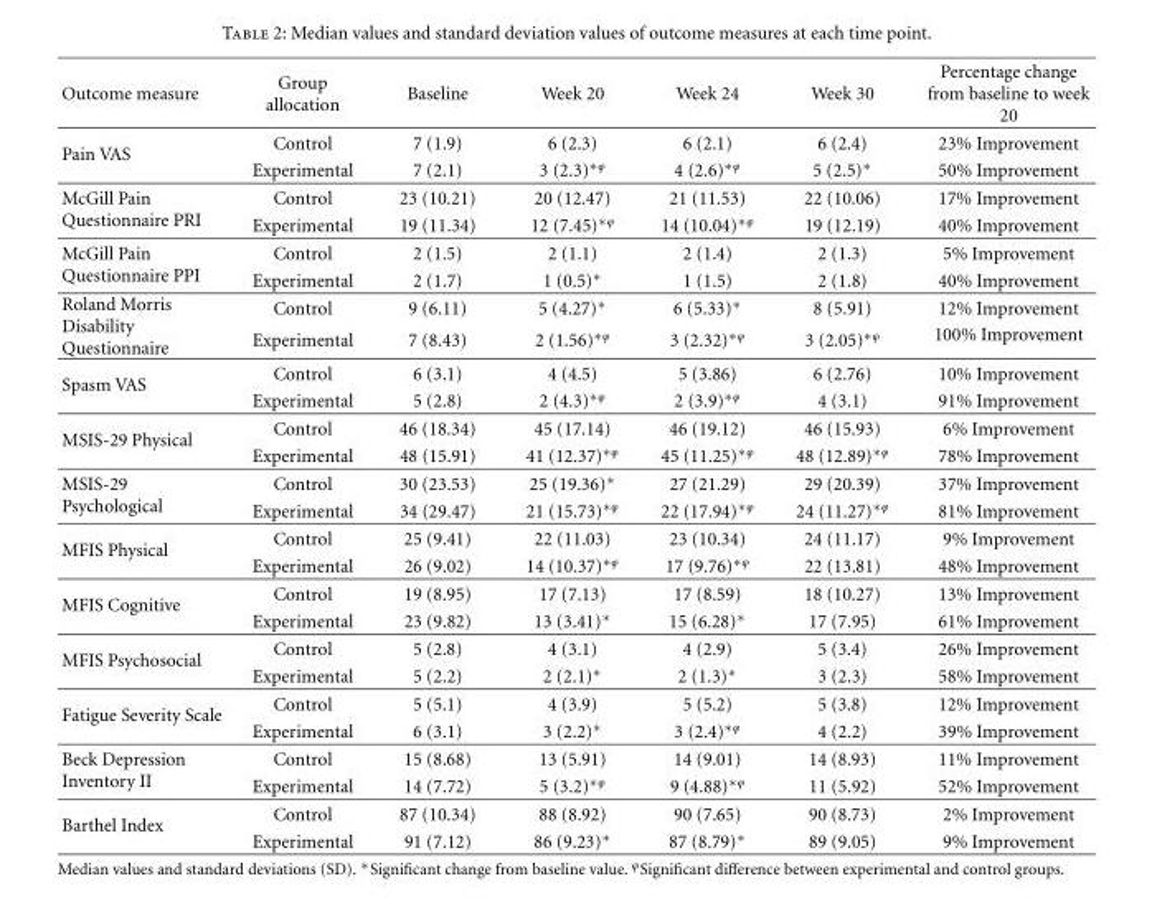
<table><thead><tr><td>Outcome measure</td><td>Group allocation</td><td>Baseline</td><td>Week 20</td><td>Week 24</td><td>Week 30</td><td>Percentage change from baseline to week 20</td></tr></thead><tbody><tr><td rowspan="2">Pain VAS</td><td>Control</td><td>7 (1.9)</td><td>6 (2.3)</td><td>6 (2.1)</td><td>6 (2.4)</td><td>23% Improvement</td></tr><tr><td>Experimental</td><td>7 (2.1)</td><td>3 (2.3)<sup>∗ϕ</sup></td><td>4 (2.6)<sup>∗ϕ</sup></td><td>5 (2.5)∗</td><td>50% Improvement</td></tr><tr><td rowspan="2">McGill Pain Questionnaire PRI</td><td>Control</td><td>23 (10.21)</td><td>20 (12.47)</td><td>21 (11.53)</td><td>22 (10.06)</td><td>17% Improvement</td></tr><tr><td>Experimental</td><td>19 (11.34)</td><td>12 (7.45)<sup>∗ϕ</sup></td><td>14 (10.04)<sup>∗ϕ</sup></td><td>19 (12.19)</td><td>40% Improvement</td></tr><tr><td rowspan="2">McGill Pain Questionnaire PPI</td><td>Control</td><td>2 (1.5)</td><td>2 (1.1)</td><td>2 (1.4)</td><td>2 (1.3)</td><td>5% Improvement</td></tr><tr><td>Experimental</td><td>2 (1.7)</td><td>1 (0.5)∗</td><td>1 (1.5)</td><td>2 (1.8)</td><td>40% Improvement</td></tr><tr><td rowspan="2">Roland Morris Disability Questionnaire</td><td>Control</td><td>9 (6.11)</td><td>5 (4.27)∗</td><td>6 (5.33)∗</td><td>8 (5.91)</td><td>12% Improvement</td></tr><tr><td>Experimental</td><td>7 (8.43)</td><td>2 (1.56)<sup>∗ϕ</sup></td><td>3 (2.32)<sup>∗ϕ</sup></td><td>3 (2.05)<sup>∗ϕ</sup></td><td>100% Improvement</td></tr><tr><td rowspan="2">Spasm VAS</td><td>Control</td><td>6 (3.1)</td><td>4 (4.5)</td><td>5 (3.86)</td><td>6 (2.76)</td><td>10% Improvement</td></tr><tr><td>Experimental</td><td>5 (2.8)</td><td>2 (4.3)<sup>∗ϕ</sup></td><td>2 (3.9)<sup>∗ϕ</sup></td><td>4 (3.1)</td><td>91% Improvement</td></tr><tr><td rowspan="2">MSIS-29 Physical</td><td>Control</td><td>46 (18.34)</td><td>45 (17.14)</td><td>46 (19.12)</td><td>46 (15.93)</td><td>6% Improvement</td></tr><tr><td>Experimental</td><td>48 (15.91)</td><td>41 (12.37)<sup>∗ϕ</sup></td><td>45 (11.25)<sup>∗ϕ</sup></td><td>48 (12.89)<sup>∗ϕ</sup></td><td>78% Improvement</td></tr><tr><td rowspan="2">MSIS-29 Psychological</td><td>Control</td><td>30 (23.53)</td><td>25 (19.36)∗</td><td>27 (21.29)</td><td>29 (20.39)</td><td>37% Improvement</td></tr><tr><td>Experimental</td><td>34 (29.47)</td><td>21 (15.73)<sup>∗ϕ</sup></td><td>22 (17.94)<sup>∗ϕ</sup></td><td>24 (11.27)<sup>∗ϕ</sup></td><td>81% Improvement</td></tr><tr><td rowspan="2">MFIS Physical</td><td>Control</td><td>25 (9.41)</td><td>22 (11.03)</td><td>23 (10.34)</td><td>24 (11.17)</td><td>9% Improvement</td></tr><tr><td>Experimental</td><td>26 (9.02)</td><td>14 (10.37)<sup>∗ϕ</sup></td><td>17 (9.76)<sup>∗ϕ</sup></td><td>22 (13.81)</td><td>48% Improvement</td></tr><tr><td rowspan="2">MFIS Cognitive</td><td>Control</td><td>19 (8.95)</td><td>17 (7.13)</td><td>17 (8.59)</td><td>18 (10.27)</td><td>13% Improvement</td></tr><tr><td>Experimental</td><td>23 (9.82)</td><td>13 (3.41)∗</td><td>15 (6.28)∗</td><td>17 (7.95)</td><td>61% Improvement</td></tr><tr><td rowspan="2">MFIS Psychosocial</td><td>Control</td><td>5 (2.8)</td><td>4 (3.1)</td><td>4 (2.9)</td><td>5 (3.4)</td><td>26% Improvement</td></tr><tr><td>Experimental</td><td>5 (2.2)</td><td>2 (2.1)∗</td><td>2 (1.3)∗</td><td>3 (2.3)</td><td>58% Improvement</td></tr><tr><td rowspan="2">Fatigue Severity Scale</td><td>Control</td><td>5 (5.1)</td><td>4 (3.9)</td><td>5 (5.2)</td><td>5 (3.8)</td><td>12% Improvement</td></tr><tr><td>Experimental</td><td>6 (3.1)</td><td>3 (2.2)∗</td><td>3 (2.4)<sup>∗ϕ</sup></td><td>4 (2.2)</td><td>39% Improvement</td></tr><tr><td rowspan="2">Beck Depression Inventory II</td><td>Control</td><td>15 (8.68)</td><td>13 (5.91)</td><td>14 (9.01)</td><td>14 (8.93)</td><td>11% Improvement</td></tr><tr><td>Experimental</td><td>14 (7.72)</td><td>5 (3.2)<sup>∗ϕ</sup></td><td>9 (4.88)<sup>∗ϕ</sup></td><td>11 (5.92)</td><td>52% Improvement</td></tr><tr><td rowspan="2">Barthel Index</td><td>Control</td><td>87 (10.34)</td><td>88 (8.92)</td><td>90 (7.65)</td><td>90 (8.73)</td><td>2% Improvement</td></tr><tr><td>Experimental</td><td>91 (7.12)</td><td>86 (9.23)∗</td><td>87 (8.79)∗</td><td>89 (9.05)</td><td>9% Improvement</td></tr></tbody></table>